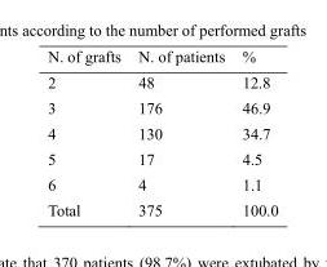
<table><thead><tr><td>N. of grafts</td><td>N. of patients</td><td>%</td></tr></thead><tbody><tr><td>2</td><td>48</td><td>12.8</td></tr><tr><td>3</td><td>176</td><td>46.9</td></tr><tr><td>4</td><td>130</td><td>34.7</td></tr><tr><td>5</td><td>17</td><td>4.5</td></tr><tr><td>6</td><td>4</td><td>1.1</td></tr><tr><td>Total</td><td>375</td><td>100.0</td></tr></tbody></table>